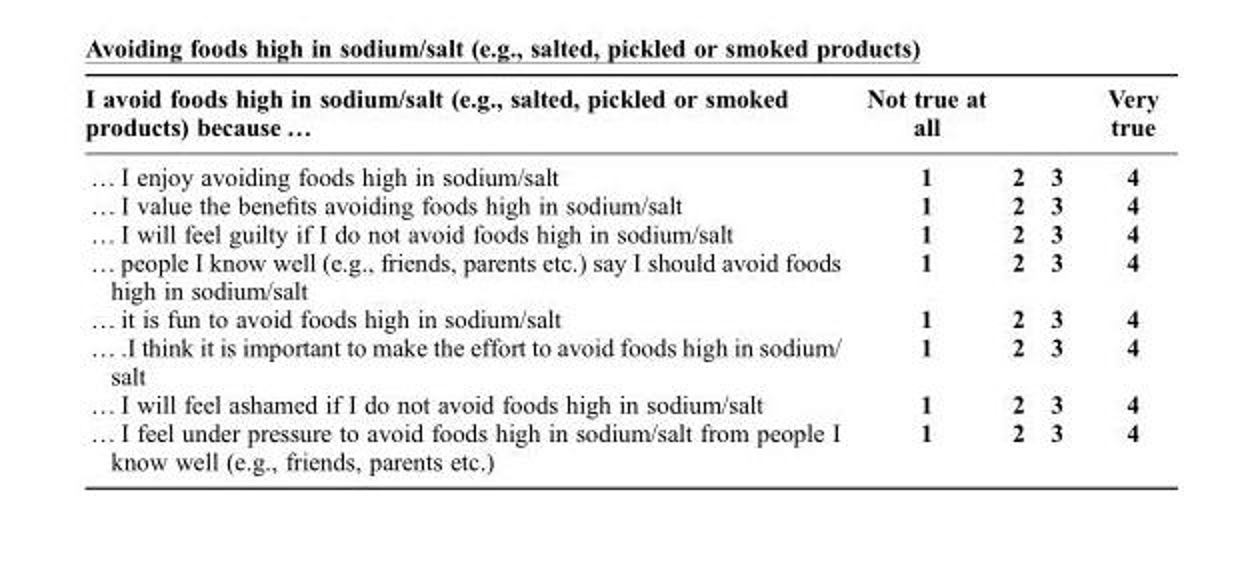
<table><thead><tr><td>I avoid foods high in sodium/salt (e.g., salted, pickled or smoked products) because …</td><td>Not true at all</td><td></td><td></td><td>Very true</td></tr></thead><tbody><tr><td>… I enjoy avoiding foods high in sodium/salt</td><td>1</td><td>2</td><td>3</td><td>4</td></tr><tr><td>… I value the benefits avoiding foods high in sodium/salt</td><td>1</td><td>2</td><td>3</td><td>4</td></tr><tr><td>… I will feel guilty if I do not avoid foods high in sodium/salt</td><td>1</td><td>2</td><td>3</td><td>4</td></tr><tr><td>… people I know well (e.g., friends, parents etc.) say I should avoid foods high in sodium/salt</td><td>1</td><td>2</td><td>3</td><td>4</td></tr><tr><td>… it is fun to avoid foods high in sodium/salt</td><td>1</td><td>2</td><td>3</td><td>4</td></tr><tr><td>… .I think it is important to make the effort to avoid foods high in sodium/ salt</td><td>1</td><td>2</td><td>3</td><td>4</td></tr><tr><td>… I will feel ashamed if I do not avoid foods high in sodium/salt</td><td>1</td><td>2</td><td>3</td><td>4</td></tr><tr><td>… I feel under pressure to avoid foods high in sodium/salt from people I know well (e.g., friends, parents etc.)</td><td>1</td><td>2</td><td>3</td><td>4</td></tr></tbody></table>